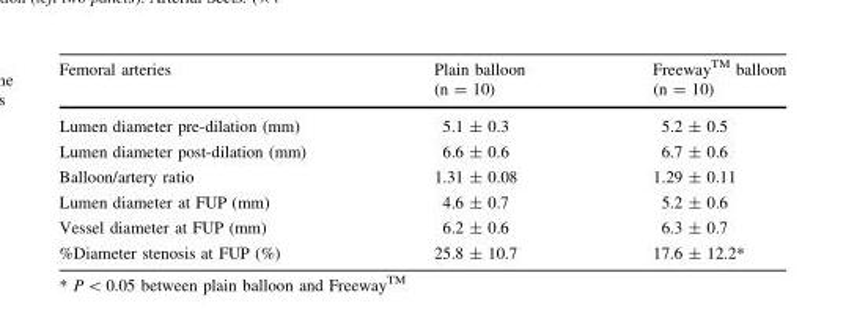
<table><thead><tr><td>Femoral arteries</td><td>Plain balloon (n = 10)</td><td>FreewayTM balloon (n = 10)</td></tr></thead><tbody><tr><td>Lumen diameter pre-dilation (mm)</td><td>5.1 ± 0.3</td><td>5.2 ± 0.5</td></tr><tr><td>Lumen diameter post-dilation (mm)</td><td>6.6 ± 0.6</td><td>6.7 ± 0.6</td></tr><tr><td>Balloon/artery ratio</td><td>1.31 ± 0.08</td><td>1.29 ± 0.11</td></tr><tr><td>Lumen diameter at FUP (mm)</td><td>4.6 ± 0.7</td><td>5.2 ± 0.6</td></tr><tr><td>Vessel diameter at FUP (mm)</td><td>6.2 ± 0.6</td><td>6.3 ± 0.7</td></tr><tr><td>%Diameter stenosis at FUP (%)</td><td>25.8 ± 10.7</td><td>17.6 ± 12.2*</td></tr></tbody></table>